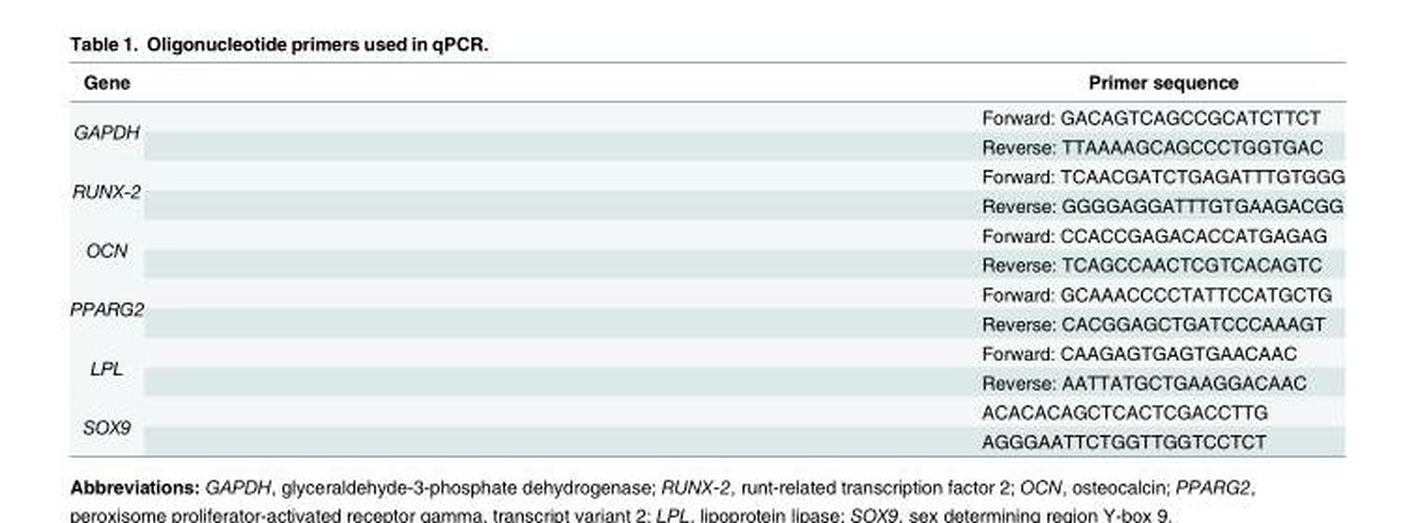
<table><thead><tr><td>Gene</td><td>Primer sequence</td></tr></thead><tbody><tr><td rowspan="2">GAPDH</td><td>Forward: GACAGTCAGCCGCATCTTCT</td></tr><tr><td>Reverse: TTAAAAGCAGCCCTGGTGAC</td></tr><tr><td rowspan="2">RUNX-2</td><td>Forward: TCAACGATCTGAGATTTGTGGG</td></tr><tr><td>Reverse: GGGGAGGATTTGTGAAGACGG</td></tr><tr><td rowspan="2">OCN</td><td>Forward: CCACCGAGACACCATGAGAG</td></tr><tr><td>Reverse: TCAGCCAACTCGTCACAGTC</td></tr><tr><td rowspan="2">PPARG2</td><td>Forward: GCAAACCCCTATTCCATGCTG</td></tr><tr><td>Reverse: CACGGAGCTGATCCCAAAGT</td></tr><tr><td rowspan="2">LPL</td><td>Forward: CAAGAGTGAGTGAACAAC</td></tr><tr><td>Reverse: AATTATGCTGAAGGACAAC</td></tr><tr><td rowspan="2">SOX9</td><td>ACACACAGCTCACTCGACCTTG</td></tr><tr><td>AGGGAATTCTGGTTGGTCCTCT</td></tr></tbody></table>